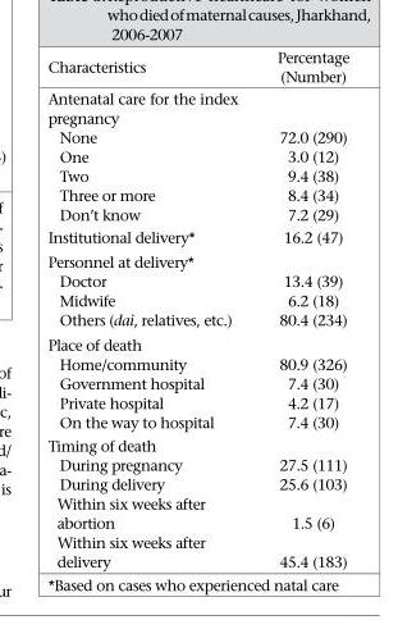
<table><thead><tr><td>Characteristics</td><td>Percentage (Number)</td></tr></thead><tbody><tr><td colspan="2">Antenatal care for the index pregnancy</td></tr><tr><td>None</td><td>72.0 (290)</td></tr><tr><td>One</td><td>3.0 (12)</td></tr><tr><td>Two</td><td>9.4 (38)</td></tr><tr><td>Three or more</td><td>8.4 (34)</td></tr><tr><td>Don’t know</td><td>7.2 (29)</td></tr><tr><td>Institutional delivery*</td><td>16.2 (47)</td></tr><tr><td colspan="2">Personnel at delivery*</td></tr><tr><td>Doctor</td><td>13.4 (39)</td></tr><tr><td>Midwife</td><td>6.2 (18)</td></tr><tr><td>Others (dai, relatives, etc.)</td><td>80.4 (234)</td></tr><tr><td colspan="2">Place of death</td></tr><tr><td>Home/community</td><td>80.9 (326)</td></tr><tr><td>Government hospital</td><td>7.4 (30)</td></tr><tr><td>Private hospital</td><td>4.2 (17)</td></tr><tr><td>On the way to hospital</td><td>7.4 (30)</td></tr><tr><td colspan="2">Timing of death</td></tr><tr><td>During pregnancy</td><td>27.5 (111)</td></tr><tr><td>During delivery</td><td>25.6 (103)</td></tr><tr><td>Within six weeks after abortion</td><td>1.5 (6)</td></tr><tr><td>Within six weeks after delivery</td><td>45.4 (183)</td></tr></tbody></table>